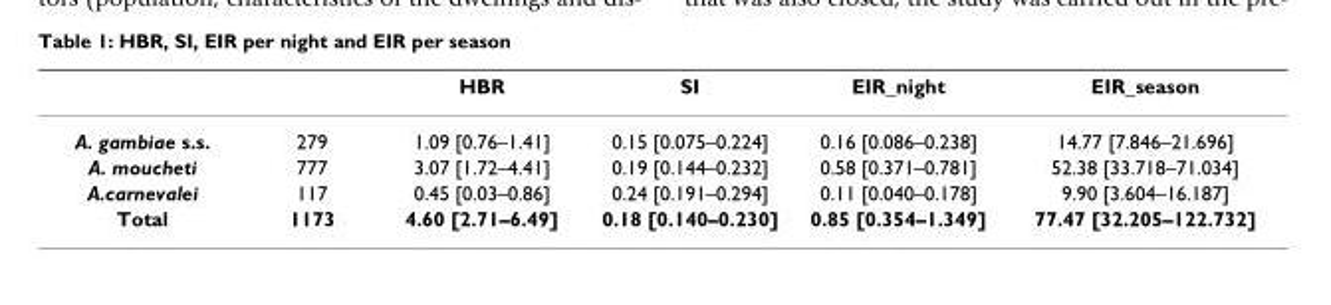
<table><thead><tr><td></td><td></td><td>HBR</td><td>SI</td><td>EIR_night</td><td>EIR_season</td></tr></thead><tbody><tr><td>A. gambiae s.s.</td><td>279</td><td>1.09 [0.76–1.41]</td><td>0.15 [0.075–0.224]</td><td>0.16 [0.086–0.238]</td><td>14.77 [7.846–21.696]</td></tr><tr><td>A. moucheti</td><td>777</td><td>3.07 [1.72–4.41]</td><td>0.19 [0.144–0.232]</td><td>0.58 [0.371–0.781]</td><td>52.38 [33.718–71.034]</td></tr><tr><td>A.carnevalei</td><td>117</td><td>0.45 [0.03–0.86]</td><td>0.24 [0.191–0.294]</td><td>0.11 [0.040–0.178]</td><td>9.90 [3.604–16.187]</td></tr><tr><td>Total</td><td>1173</td><td>4.60 [2.71–6.49]</td><td>0.18 [0.140–0.230]</td><td>0.85 [0.354–1.349]</td><td>77.47 [32.205–122.732]</td></tr></tbody></table>